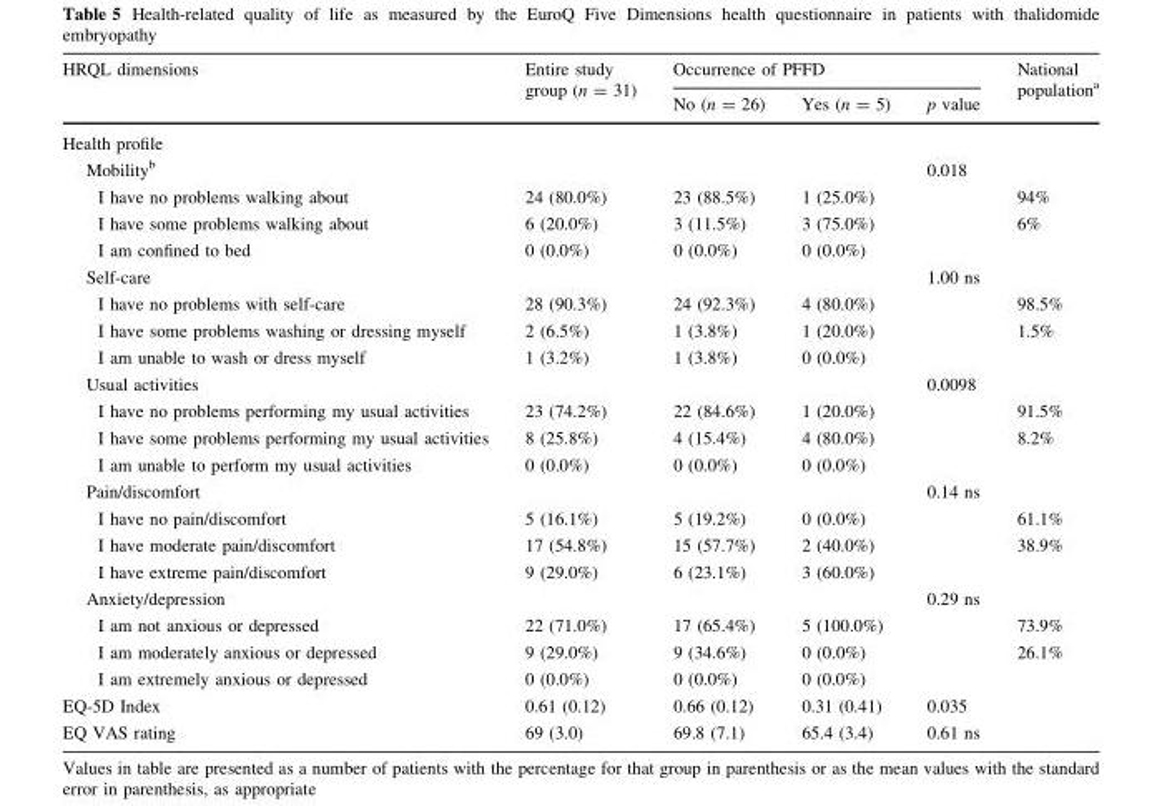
<table><thead><tr><td rowspan="2">HRQL dimensions</td><td rowspan="2">Entire study group (n = 31)</td><td colspan="3">Occurrence of PFFD</td><td rowspan="2">National population<sup>a</sup></td></tr><tr><td>No (n = 26)</td><td>Yes (n = 5)</td><td>p value</td></tr></thead><tbody><tr><td colspan="6">Health profile</td></tr><tr><td>Mobility<sup>b</sup></td><td></td><td></td><td></td><td>0.018</td><td></td></tr><tr><td>I have no problems walking about</td><td>24 (80.0%)</td><td>23 (88.5%)</td><td>1 (25.0%)</td><td></td><td>94%</td></tr><tr><td>I have some problems walking about</td><td>6 (20.0%)</td><td>3 (11.5%)</td><td>3 (75.0%)</td><td></td><td rowspan="2">6%</td></tr><tr><td>I am confined to bed</td><td>0 (0.0%)</td><td>0 (0.0%)</td><td>0 (0.0%)</td><td></td></tr><tr><td>Self-care</td><td></td><td></td><td></td><td>1.00 ns</td><td></td></tr><tr><td>I have no problems with self-care</td><td>28 (90.3%)</td><td>24 (92.3%)</td><td>4 (80.0%)</td><td></td><td>98.5%</td></tr><tr><td>I have some problems washing or dressing myself</td><td>2 (6.5%)</td><td>1 (3.8%)</td><td>1 (20.0%)</td><td></td><td rowspan="2">1.5%</td></tr><tr><td>I am unable to wash or dress myself</td><td>1 (3.2%)</td><td>1 (3.8%)</td><td>0 (0.0%)</td><td></td></tr><tr><td>Usual activities</td><td></td><td></td><td></td><td>0.0098</td><td></td></tr><tr><td>I have no problems performing my usual activities</td><td>23 (74.2%)</td><td>22 (84.6%)</td><td>1 (20.0%)</td><td></td><td>91.5%</td></tr><tr><td>I have some problems performing my usual activities</td><td>8 (25.8%)</td><td>4 (15.4%)</td><td>4 (80.0%)</td><td></td><td rowspan="2">8.2%</td></tr><tr><td>I am unable to perform my usual activities</td><td>0 (0.0%)</td><td>0 (0.0%)</td><td>0 (0.0%)</td><td></td></tr><tr><td>Pain/discomfort</td><td></td><td></td><td></td><td>0.14 ns</td><td></td></tr><tr><td>I have no pain/discomfort</td><td>5 (16.1%)</td><td>5 (19.2%)</td><td>0 (0.0%)</td><td></td><td>61.1%</td></tr><tr><td>I have moderate pain/discomfort</td><td>17 (54.8%)</td><td>15 (57.7%)</td><td>2 (40.0%)</td><td></td><td rowspan="2">38.9%</td></tr><tr><td>I have extreme pain/discomfort</td><td>9 (29.0%)</td><td>6 (23.1%)</td><td>3 (60.0%)</td><td></td></tr><tr><td>Anxiety/depression</td><td></td><td></td><td></td><td>0.29 ns</td><td></td></tr><tr><td>I am not anxious or depressed</td><td>22 (71.0%)</td><td>17 (65.4%)</td><td>5 (100.0%)</td><td></td><td>73.9%</td></tr><tr><td>I am moderately anxious or depressed</td><td>9 (29.0%)</td><td>9 (34.6%)</td><td>0 (0.0%)</td><td></td><td rowspan="2">26.1%</td></tr><tr><td>I am extremely anxious or depressed</td><td>0 (0.0%)</td><td>0 (0.0%)</td><td>0 (0.0%)</td><td></td></tr><tr><td>EQ-5D Index</td><td>0.61 (0.12)</td><td>0.66 (0.12)</td><td>0.31 (0.41)</td><td>0.035</td><td></td></tr><tr><td>EQ VAS rating</td><td>69 (3.0)</td><td>69.8 (7.1)</td><td>65.4 (3.4)</td><td>0.61 ns</td><td></td></tr></tbody></table>